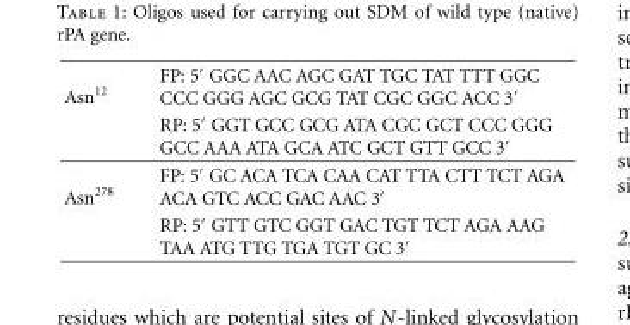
<table><tbody><tr><td rowspan="2">Asn<sup>12</sup></td><td>FP: 5′ GGC AAC AGC GAT TGC TAT TTT GGC CCC GGG AGC GCG TAT CGC GGC ACC 3′</td></tr><tr><td>RP: 5′ GGT GCC GCG ATA CGC GCT CCC GGG GCC AAA ATA GCA ATC GCT GTT GCC 3′</td></tr><tr><td rowspan="2">Asn<sup>278</sup></td><td>FP: 5′ GC ACA TCA CAA CAT TTA CTT TCT AGA ACA GTC ACC GAC AAC 3′</td></tr><tr><td>RP: 5′ GTT GTC GGT GAC TGT TCT AGA AAG TAA ATG TTG TGA TGT GC 3′</td></tr></tbody></table>